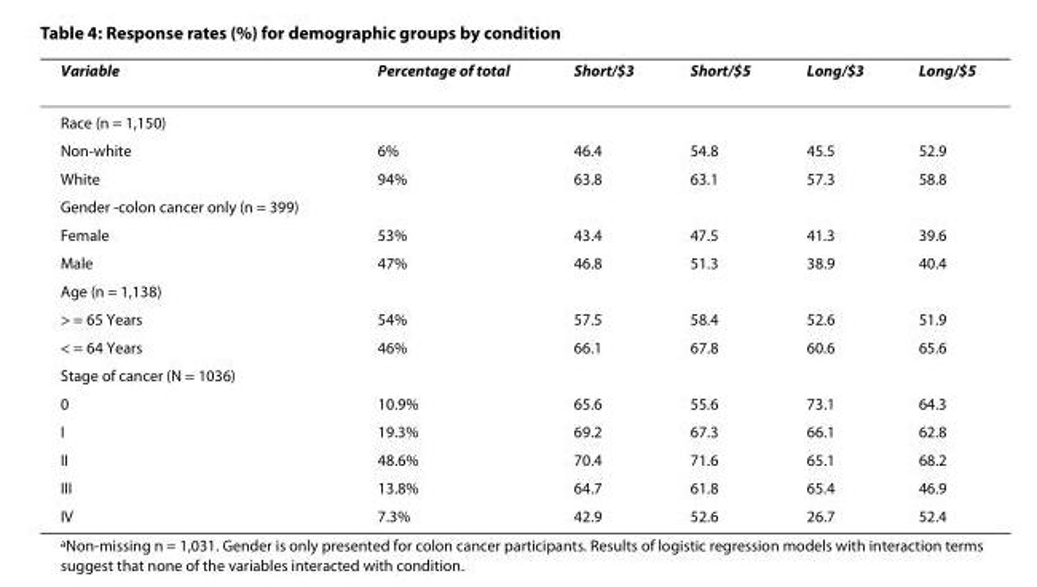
<table><thead><tr><td>Variable</td><td>Percentage of total</td><td>Short/$3</td><td>Short/$5</td><td>Long/$3</td><td>Long/$5</td></tr></thead><tbody><tr><td colspan="6">Race (n = 1,150)</td></tr><tr><td>Non-white</td><td>6%</td><td>46.4</td><td>54.8</td><td>45.5</td><td>52.9</td></tr><tr><td>White</td><td>94%</td><td>63.8</td><td>63.1</td><td>57.3</td><td>58.8</td></tr><tr><td colspan="6">Gender -colon cancer only (n = 399)</td></tr><tr><td>Female</td><td>53%</td><td>43.4</td><td>47.5</td><td>41.3</td><td>39.6</td></tr><tr><td>Male</td><td>47%</td><td>46.8</td><td>51.3</td><td>38.9</td><td>40.4</td></tr><tr><td colspan="6">Age (n = 1,138)</td></tr><tr><td>&gt; = 65 Years</td><td>54%</td><td>57.5</td><td>58.4</td><td>52.6</td><td>51.9</td></tr><tr><td>&lt; = 64 Years</td><td>46%</td><td>66.1</td><td>67.8</td><td>60.6</td><td>65.6</td></tr><tr><td colspan="6">Stage of cancer (N = 1036)</td></tr><tr><td>0</td><td>10.9%</td><td>65.6</td><td>55.6</td><td>73.1</td><td>64.3</td></tr><tr><td>I</td><td>19.3%</td><td>69.2</td><td>67.3</td><td>66.1</td><td>62.8</td></tr><tr><td>II</td><td>48.6%</td><td>70.4</td><td>71.6</td><td>65.1</td><td>68.2</td></tr><tr><td>III</td><td>13.8%</td><td>64.7</td><td>61.8</td><td>65.4</td><td>46.9</td></tr><tr><td>IV</td><td>7.3%</td><td>42.9</td><td>52.6</td><td>26.7</td><td>52.4</td></tr></tbody></table>